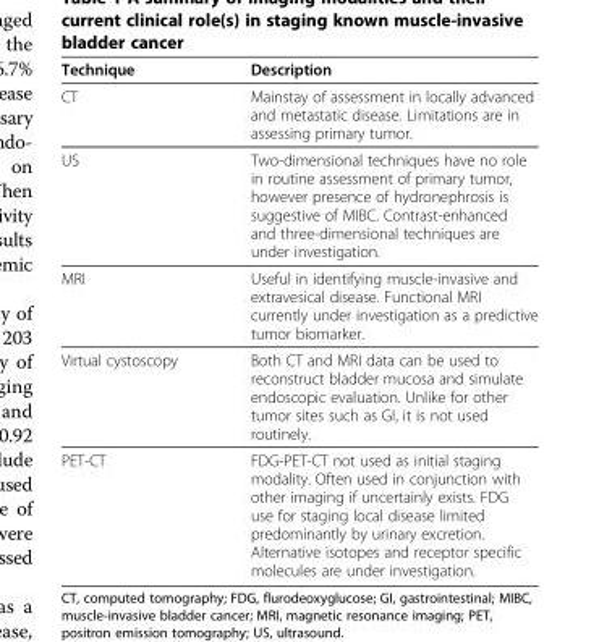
<table><thead><tr><td>Technique</td><td>Description</td></tr></thead><tbody><tr><td>CT</td><td>Mainstay of assessment in locally advanced and metastatic disease. Limitations are in assessing primary tumor.</td></tr><tr><td>US</td><td>Two-dimensional techniques have no role in routine assessment of primary tumor, however presence of hydronephrosis is suggestive of MIBC. Contrast-enhanced and three-dimensional techniques are under investigation.</td></tr><tr><td>MRI</td><td>Useful in identifying muscle-invasive and extravesical disease. Functional MRI currently under investigation as a predictive tumor biomarker.</td></tr><tr><td>Virtual cystoscopy</td><td>Both CT and MRI data can be used to reconstruct bladder mucosa and simulate endoscopic evaluation. Unlike for other tumor sites such as GI, it is not used routinely.</td></tr><tr><td>PET-CT</td><td>FDG-PET-CT not used as initial staging modality. Often used in conjunction with other imaging if uncertainly exists. FDG use for staging local disease limited predominantly by urinary excretion. Alternative isotopes and receptor specific molecules are under investigation.</td></tr></tbody></table>